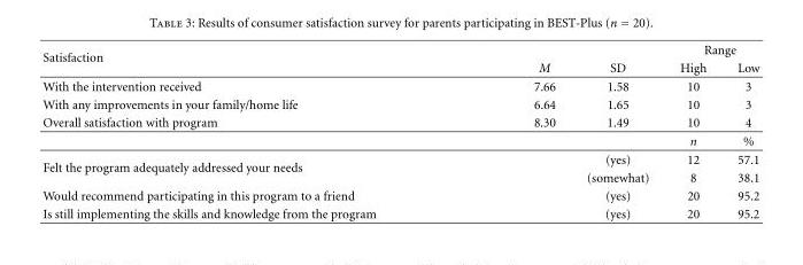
<table><thead><tr><td rowspan="2">Satisfaction</td><td rowspan="2">M</td><td rowspan="2">SD</td><td colspan="2">Range</td></tr><tr><td>High</td><td>Low</td></tr></thead><tbody><tr><td>With the intervention received</td><td>7.66</td><td>1.58</td><td>10</td><td>3</td></tr><tr><td>With any improvements in your family/home life</td><td>6.64</td><td>1.65</td><td>10</td><td>3</td></tr><tr><td rowspan="2">Overall satisfaction with program</td><td>8.30</td><td>1.49</td><td>10</td><td>4</td></tr><tr><td></td><td></td><td>n</td><td>%</td></tr><tr><td rowspan="2">Felt the program adequately addressed your needs</td><td></td><td>(yes)</td><td>12</td><td>57.1</td></tr><tr><td></td><td>(somewhat)</td><td>8</td><td>38.1</td></tr><tr><td>Would recommend participating in this program to a friend</td><td></td><td>(yes)</td><td>20</td><td>95.2</td></tr><tr><td>Is still implementing the skills and knowledge from the program</td><td></td><td>(yes)</td><td>20</td><td>95.2</td></tr></tbody></table>